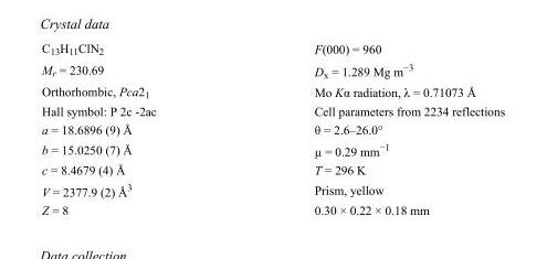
<table><tbody><tr><td>C<sub>13</sub>H<sub>11</sub>ClN<sub>2</sub></td><td>F(000) = 960</td></tr><tr><td>M<sub>r</sub> = 230.69</td><td>D<sub>x</sub> = 1.289 Mg m<sup>−3</sup></td></tr><tr><td>Orthorhombic, Pca2<sub>1</sub></td><td>Mo Kα radiation, λ = 0.71073 Å</td></tr><tr><td>Hall symbol: P 2c -2ac</td><td>Cell parameters from 2234 reflections</td></tr><tr><td>a = 18.6896 (9) Å</td><td>θ = 2.6–26.0°</td></tr><tr><td>b = 15.0250 (7) Å</td><td>µ = 0.29 mm<sup>−1</sup></td></tr><tr><td>c = 8.4679 (4) Å</td><td>T = 296 K</td></tr><tr><td>V = 2377.9 (2) Å<sup>3</sup></td><td>Prism, yellow</td></tr><tr><td>Z = 8</td><td>0.30 × 0.22 × 0.18 mm</td></tr></tbody></table>